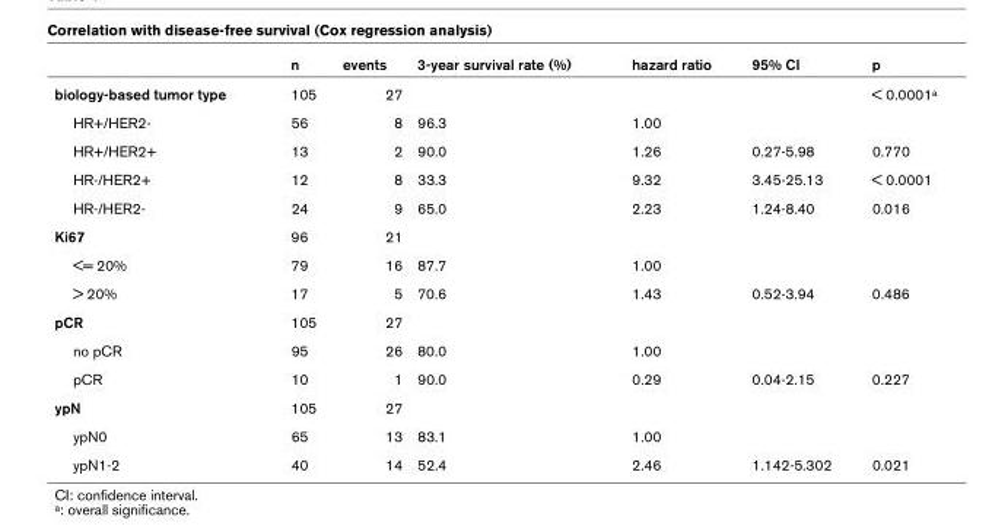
<table><thead><tr><td></td><td>n</td><td>events</td><td>3-year survival rate (%)</td><td>hazard ratio</td><td>95% CI</td><td>p</td></tr></thead><tbody><tr><td>biology-based tumor type</td><td>105</td><td>27</td><td></td><td></td><td></td><td>&lt; 0.0001<sup>a</sup></td></tr><tr><td>HR+/HER2-</td><td>56</td><td>8</td><td>96.3</td><td>1.00</td><td></td><td></td></tr><tr><td>HR+/HER2+</td><td>13</td><td>2</td><td>90.0</td><td>1.26</td><td>0.27-5.98</td><td>0.770</td></tr><tr><td>HR-/HER2+</td><td>12</td><td>8</td><td>33.3</td><td>9.32</td><td>3.45-25.13</td><td>&lt; 0.0001</td></tr><tr><td>HR-/HER2-</td><td>24</td><td>9</td><td>65.0</td><td>2.23</td><td>1.24-8.40</td><td>0.016</td></tr><tr><td>Ki67</td><td>96</td><td>21</td><td></td><td></td><td></td><td></td></tr><tr><td>&lt;= 20%</td><td>79</td><td>16</td><td>87.7</td><td>1.00</td><td></td><td></td></tr><tr><td>&gt; 20%</td><td>17</td><td>5</td><td>70.6</td><td>1.43</td><td>0.52-3.94</td><td>0.486</td></tr><tr><td>pCR</td><td>105</td><td>27</td><td></td><td></td><td></td><td></td></tr><tr><td>no pCR</td><td>95</td><td>26</td><td>80.0</td><td>1.00</td><td></td><td></td></tr><tr><td>pCR</td><td>10</td><td>1</td><td>90.0</td><td>0.29</td><td>0.04-2.15</td><td>0.227</td></tr><tr><td>ypN</td><td>105</td><td>27</td><td></td><td></td><td></td><td></td></tr><tr><td>ypN0</td><td>65</td><td>13</td><td>83.1</td><td>1.00</td><td></td><td></td></tr><tr><td>ypN1-2</td><td>40</td><td>14</td><td>52.4</td><td>2.46</td><td>1.142-5.302</td><td>0.021</td></tr></tbody></table>